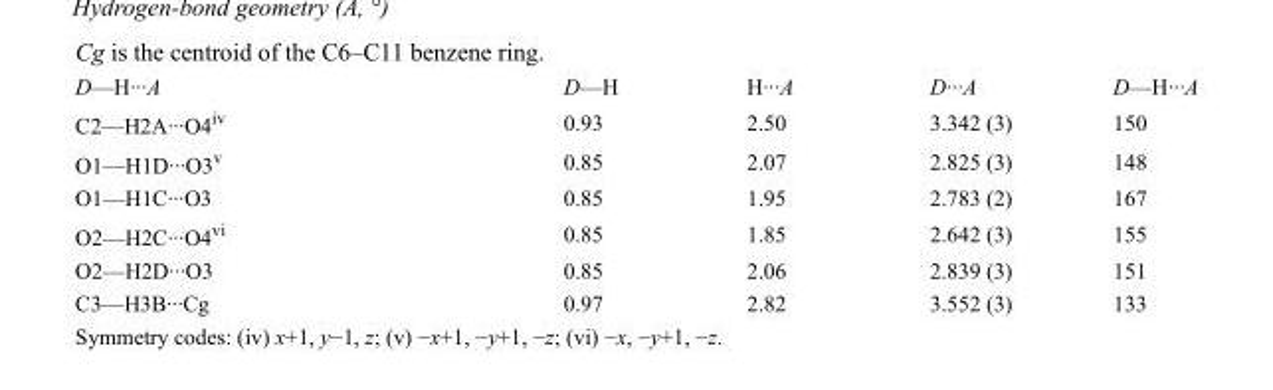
<table><tbody><tr><td>D—H···A</td><td>D—H</td><td>H···A</td><td>D···A</td><td>D—H···A</td></tr><tr><td>C2—H2A···O4<sup>iv</sup></td><td>0.93</td><td>2.50</td><td>3.342 (3)</td><td>150</td></tr><tr><td>O1—H1D···O3<sup>v</sup></td><td>0.85</td><td>2.07</td><td>2.825 (3)</td><td>148</td></tr><tr><td>O1—H1C···O3</td><td>0.85</td><td>1.95</td><td>2.783 (2)</td><td>167</td></tr><tr><td>O2—H2C···O4<sup>vi</sup></td><td>0.85</td><td>1.85</td><td>2.642 (3)</td><td>155</td></tr><tr><td>O2—H2D···O3</td><td>0.85</td><td>2.06</td><td>2.839 (3)</td><td>151</td></tr><tr><td>C3—H3B···Cg</td><td>0.97</td><td>2.82</td><td>3.552 (3)</td><td>133</td></tr></tbody></table>